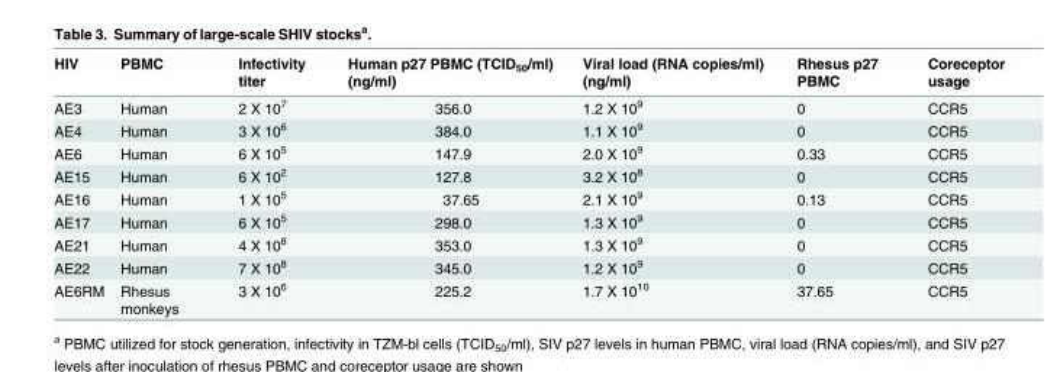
<table><thead><tr><td>HIV</td><td>PBMC</td><td>Infectivity titer</td><td>Human p27 PBMC (TCID<sub>50</sub>/ml) (ng/ml)</td><td>Viral load (RNA copies/ml) (ng/ml)</td><td>Rhesus p27 PBMC</td><td>Coreceptor usage</td></tr></thead><tbody><tr><td>AE3</td><td>Human</td><td>2 X 10<sup>7</sup></td><td>356.0</td><td>1.2 X 10<sup>9</sup></td><td>0</td><td>CCR5</td></tr><tr><td>AE4</td><td>Human</td><td>3 X 10<sup>6</sup></td><td>384.0</td><td>1.1 X 10<sup>9</sup></td><td>0</td><td>CCR5</td></tr><tr><td>AE6</td><td>Human</td><td>6 X 10<sup>5</sup></td><td>147.9</td><td>2.0 X 10<sup>9</sup></td><td>0.33</td><td>CCR5</td></tr><tr><td>AE15</td><td>Human</td><td>6 X 10<sup>2</sup></td><td>127.8</td><td>3.2 X 10<sup>8</sup></td><td>0</td><td>CCR5</td></tr><tr><td>AE16</td><td>Human</td><td>1 X 10<sup>5</sup></td><td>37.65</td><td>2.1 X 10<sup>9</sup></td><td>0.13</td><td>CCR5</td></tr><tr><td>AE17</td><td>Human</td><td>6 X 10<sup>5</sup></td><td>298.0</td><td>1.3 X 10<sup>9</sup></td><td>0</td><td>CCR5</td></tr><tr><td>AE21</td><td>Human</td><td>4 X 10<sup>8</sup></td><td>353.0</td><td>1.3 X 10<sup>9</sup></td><td>0</td><td>CCR5</td></tr><tr><td>AE22</td><td>Human</td><td>7 X 10<sup>8</sup></td><td>345.0</td><td>1.2 X 10<sup>9</sup></td><td>0</td><td>CCR5</td></tr><tr><td>AE6RM</td><td>Rhesus monkeys</td><td>3 X 10<sup>6</sup></td><td>225.2</td><td>1.7 X 10<sup>10</sup></td><td>37.65</td><td>CCR5</td></tr></tbody></table>